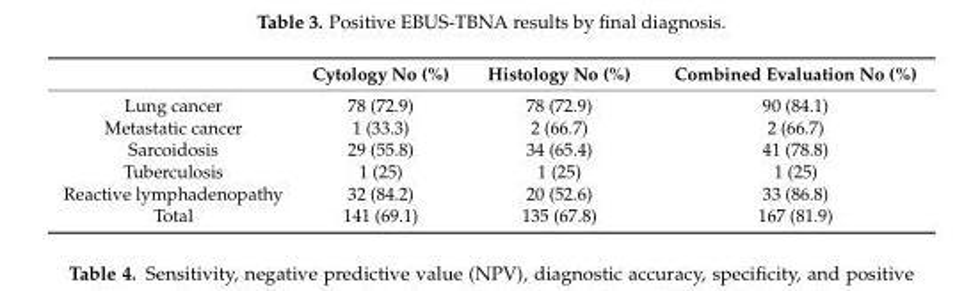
<table><thead><tr><td></td><td>Cytology No (%)</td><td>Histology No (%)</td><td>Combined Evaluation No (%)</td></tr></thead><tbody><tr><td>Lung cancer</td><td>78 (72.9)</td><td>78 (72.9)</td><td>90 (84.1)</td></tr><tr><td>Metastatic cancer</td><td>1 (33.3)</td><td>2 (66.7)</td><td>2 (66.7)</td></tr><tr><td>Sarcoidosis</td><td>29 (55.8)</td><td>34 (65.4)</td><td>41 (78.8)</td></tr><tr><td>Tuberculosis</td><td>1 (25)</td><td>1 (25)</td><td>1 (25)</td></tr><tr><td>Reactive lymphadenopathy</td><td>32 (84.2)</td><td>20 (52.6)</td><td>33 (86.8)</td></tr><tr><td>Total</td><td>141 (69.1)</td><td>135 (67.8)</td><td>167 (81.9)</td></tr></tbody></table>